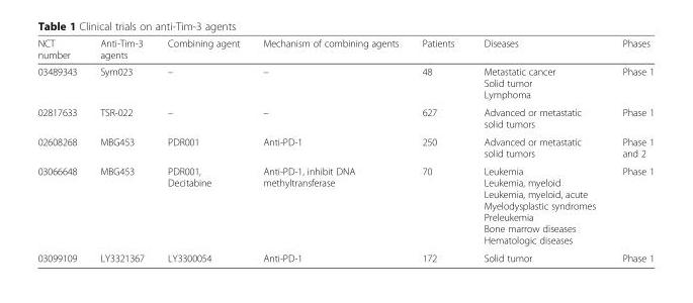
<table><thead><tr><td>NCT number</td><td>Anti-Tim-3 agents</td><td>Combining agent</td><td>Mechanism of combining agents</td><td>Patients</td><td>Diseases</td><td>Phases</td></tr></thead><tbody><tr><td>03489343</td><td>Sym023</td><td>–</td><td>–</td><td>48</td><td>Metastatic cancer Solid tumor Lymphoma</td><td>Phase 1</td></tr><tr><td>02817633</td><td>TSR-022</td><td>–</td><td>–</td><td>627</td><td>Advanced or metastatic solid tumors</td><td>Phase 1</td></tr><tr><td>02608268</td><td>MBG453</td><td>PDR001</td><td>Anti-PD-1</td><td>250</td><td>Advanced or metastatic solid tumors</td><td>Phase 1 and 2</td></tr><tr><td>03066648</td><td>MBG453</td><td>PDR001, Decitabine</td><td>Anti-PD-1, inhibit DNA methyltransferase</td><td>70</td><td>Leukemia Leukemia, myeloid Leukemia, myeloid, acute Myelodysplastic syndromes Preleukemia Bone marrow diseases Hematologic diseases</td><td>Phase 1</td></tr><tr><td>03099109</td><td>LY3321367</td><td>LY3300054</td><td>Anti-PD-1</td><td>172</td><td>Solid tumor</td><td>Phase 1</td></tr></tbody></table>